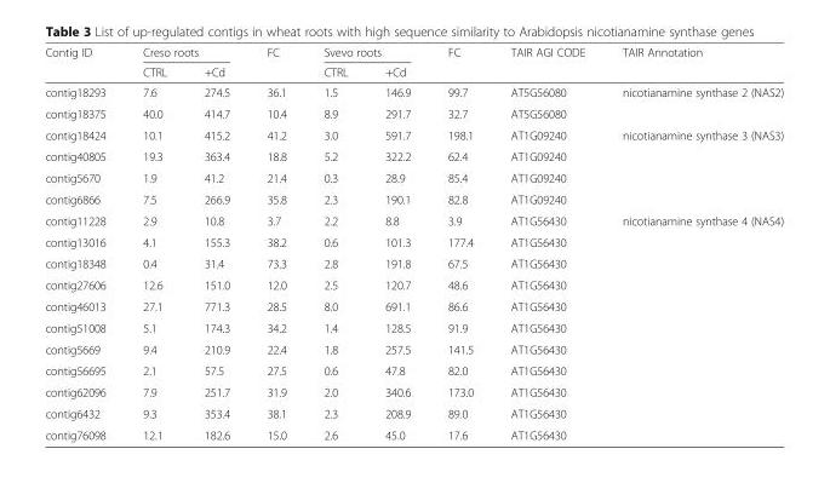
<table><thead><tr><td rowspan="2">Contig ID</td><td colspan="2">Creso roots</td><td rowspan="2">FC</td><td colspan="2">Svevo roots</td><td rowspan="2">FC</td><td rowspan="2">TAIR AGI CODE</td><td rowspan="2">TAIR Annotation</td></tr><tr><td>CTRL</td><td>+Cd</td><td>CTRL</td><td>+Cd</td></tr></thead><tbody><tr><td>contig18293</td><td>7.6</td><td>274.5</td><td>36.1</td><td>1.5</td><td>146.9</td><td>99.7</td><td>AT5G56080</td><td rowspan="2">nicotianamine synthase 2 (NAS2)</td></tr><tr><td>contig18375</td><td>40.0</td><td>414.7</td><td>10.4</td><td>8.9</td><td>291.7</td><td>32.7</td><td>AT5G56080</td></tr><tr><td>contig18424</td><td>10.1</td><td>415.2</td><td>41.2</td><td>3.0</td><td>591.7</td><td>198.1</td><td>AT1G09240</td><td rowspan="4">nicotianamine synthase 3 (NAS3)</td></tr><tr><td>contig40805</td><td>19.3</td><td>363.4</td><td>18.8</td><td>5.2</td><td>322.2</td><td>62.4</td><td>AT1G09240</td></tr><tr><td>contig5670</td><td>1.9</td><td>41.2</td><td>21.4</td><td>0.3</td><td>28.9</td><td>85.4</td><td>AT1G09240</td></tr><tr><td>contig6866</td><td>7.5</td><td>266.9</td><td>35.8</td><td>2.3</td><td>190.1</td><td>82.8</td><td>AT1G09240</td></tr><tr><td>contig11228</td><td>2.9</td><td>10.8</td><td>3.7</td><td>2.2</td><td>8.8</td><td>3.9</td><td>AT1G56430</td><td rowspan="11">nicotianamine synthase 4 (NAS4)</td></tr><tr><td>contig13016</td><td>4.1</td><td>155.3</td><td>38.2</td><td>0.6</td><td>101.3</td><td>177.4</td><td>AT1G56430</td></tr><tr><td>contig18348</td><td>0.4</td><td>31.4</td><td>73.3</td><td>2.8</td><td>191.8</td><td>67.5</td><td>AT1G56430</td></tr><tr><td>contig27606</td><td>12.6</td><td>151.0</td><td>12.0</td><td>2.5</td><td>120.7</td><td>48.6</td><td>AT1G56430</td></tr><tr><td>contig46013</td><td>27.1</td><td>771.3</td><td>28.5</td><td>8.0</td><td>691.1</td><td>86.6</td><td>AT1G56430</td></tr><tr><td>contig51008</td><td>5.1</td><td>174.3</td><td>34.2</td><td>1.4</td><td>128.5</td><td>91.9</td><td>AT1G56430</td></tr><tr><td>contig5669</td><td>9.4</td><td>210.9</td><td>22.4</td><td>1.8</td><td>257.5</td><td>141.5</td><td>AT1G56430</td></tr><tr><td>contig56695</td><td>2.1</td><td>57.5</td><td>27.5</td><td>0.6</td><td>47.8</td><td>82.0</td><td>AT1G56430</td></tr><tr><td>contig62096</td><td>7.9</td><td>251.7</td><td>31.9</td><td>2.0</td><td>340.6</td><td>173.0</td><td>AT1G56430</td></tr><tr><td>contig6432</td><td>9.3</td><td>353.4</td><td>38.1</td><td>2.3</td><td>208.9</td><td>89.0</td><td>AT1G56430</td></tr><tr><td>contig76098</td><td>12.1</td><td>182.6</td><td>15.0</td><td>2.6</td><td>45.0</td><td>17.6</td><td>AT1G56430</td></tr></tbody></table>